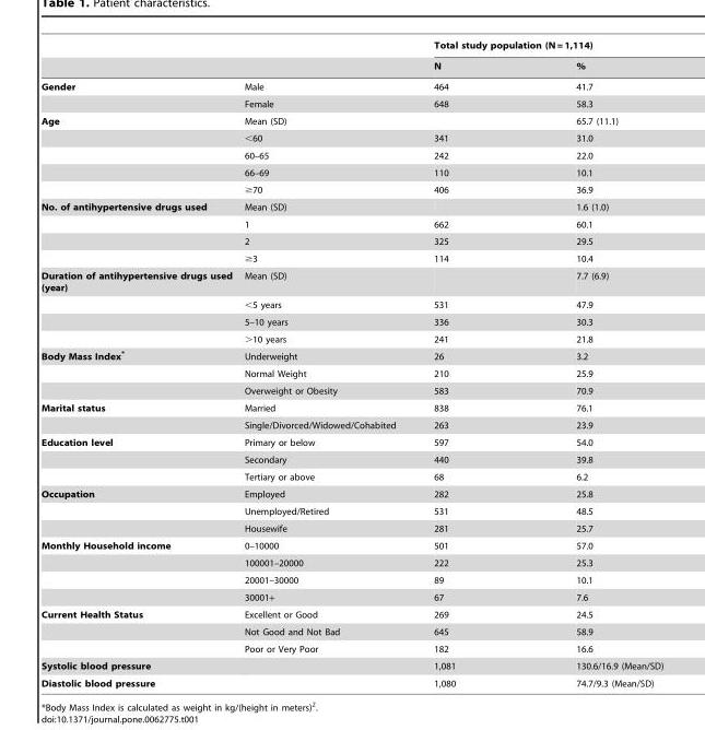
<table><thead><tr><td rowspan="2"></td><td rowspan="2"></td><td colspan="2">Total study population (N = 1,114)</td></tr><tr><td>N</td><td>%</td></tr></thead><tbody><tr><td rowspan="2">Gender</td><td>Male</td><td>464</td><td>41.7</td></tr><tr><td>Female</td><td>648</td><td>58.3</td></tr><tr><td rowspan="5">Age</td><td>Mean (SD)</td><td></td><td>65.7 (11.1)</td></tr><tr><td>&lt;60</td><td>341</td><td>31.0</td></tr><tr><td>60–65</td><td>242</td><td>22.0</td></tr><tr><td>66–69</td><td>110</td><td>10.1</td></tr><tr><td>≥70</td><td>406</td><td>36.9</td></tr><tr><td rowspan="4">No. of antihypertensive drugs used</td><td>Mean (SD)</td><td></td><td>1.6 (1.0)</td></tr><tr><td>1</td><td>662</td><td>60.1</td></tr><tr><td>2</td><td>325</td><td>29.5</td></tr><tr><td>≥3</td><td>114</td><td>10.4</td></tr><tr><td rowspan="4">Duration of antihypertensive drugs used (year)</td><td>Mean (SD)</td><td></td><td>7.7 (6.9)</td></tr><tr><td>&lt;5 years</td><td>531</td><td>47.9</td></tr><tr><td>5–10 years</td><td>336</td><td>30.3</td></tr><tr><td>&gt;10 years</td><td>241</td><td>21.8</td></tr><tr><td rowspan="3">Body Mass Index*</td><td>Underweight</td><td>26</td><td>3.2</td></tr><tr><td>Normal Weight</td><td>210</td><td>25.9</td></tr><tr><td>Overweight or Obesity</td><td>583</td><td>70.9</td></tr><tr><td rowspan="2">Marital status</td><td>Married</td><td>838</td><td>76.1</td></tr><tr><td>Single/Divorced/Widowed/Cohabited</td><td>263</td><td>23.9</td></tr><tr><td rowspan="3">Education level</td><td>Primary or below</td><td>597</td><td>54.0</td></tr><tr><td>Secondary</td><td>440</td><td>39.8</td></tr><tr><td>Tertiary or above</td><td>68</td><td>6.2</td></tr><tr><td rowspan="3">Occupation</td><td>Employed</td><td>282</td><td>25.8</td></tr><tr><td>Unemployed/Retired</td><td>531</td><td>48.5</td></tr><tr><td>Housewife</td><td>281</td><td>25.7</td></tr><tr><td rowspan="4">Monthly Household income</td><td>0–10000</td><td>501</td><td>57.0</td></tr><tr><td>100001–20000</td><td>222</td><td>25.3</td></tr><tr><td>20001–30000</td><td>89</td><td>10.1</td></tr><tr><td>30001+</td><td>67</td><td>7.6</td></tr><tr><td rowspan="3">Current Health Status</td><td>Excellent or Good</td><td>269</td><td>24.5</td></tr><tr><td>Not Good and Not Bad</td><td>645</td><td>58.9</td></tr><tr><td>Poor or Very Poor</td><td>182</td><td>16.6</td></tr><tr><td>Systolic blood pressure</td><td></td><td>1,081</td><td>130.6/16.9 (Mean/SD)</td></tr><tr><td>Diastolic blood pressure</td><td></td><td>1,080</td><td>74.7/9.3 (Mean/SD)</td></tr></tbody></table>